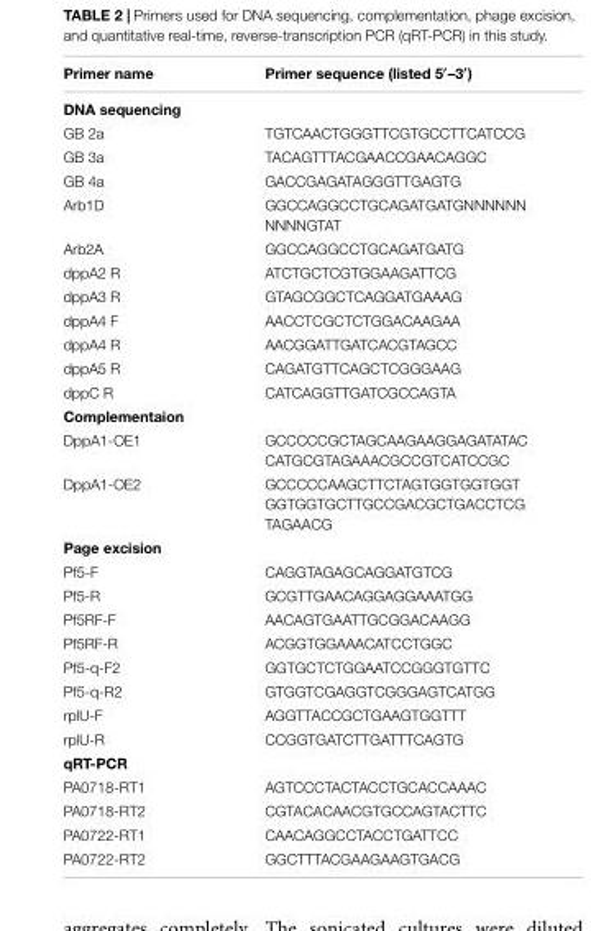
<table><thead><tr><td>Primer name</td><td>Primer sequence (listed 5′–3′)</td></tr></thead><tbody><tr><td colspan="2">DNA sequencing</td></tr><tr><td>GB 2a</td><td>TGTCAACTGGGTTCGTGCCTTCATCCG</td></tr><tr><td>GB 3a</td><td>TACAGTTTACGAACCGAACAGGC</td></tr><tr><td>GB 4a</td><td>GACCGAGATAGGGTTGAGTG</td></tr><tr><td>Arb1D</td><td>GGCCAGGCCTGCAGATGATGNNNNNN NNNNGTAT</td></tr><tr><td>Arb2A</td><td>GGCCAGGCCTGCAGATGATG</td></tr><tr><td>dppA2 R</td><td>ATCTGCTCGTGGAAGATTCG</td></tr><tr><td>dppA3 R</td><td>GTAGCGGCTCAGGATGAAAG</td></tr><tr><td>dppA4 F</td><td>AACCTCGCTCTGGACAAGAA</td></tr><tr><td>dppA4 R</td><td>AACGGATTGATCACGTAGCC</td></tr><tr><td>dppA5 R</td><td>CAGATGTTCAGCTCGGGAAG</td></tr><tr><td>dppC R</td><td>CATCAGGTTGATCGCCAGTA</td></tr><tr><td colspan="2">Complementaion</td></tr><tr><td>DppA1-OE1</td><td>GCCCCCGCTAGCAAGAAGGAGATATAC CATGCGTAGAAACGCCGTCATCCGC</td></tr><tr><td>DppA1-OE2</td><td>GCCCCCAAGCTTCTAGTGGTGGTGGT GGTGGTGCTTGCCGACGCTGACCTCG TAGAACG</td></tr><tr><td colspan="2">Page excision</td></tr><tr><td>Pf5-F</td><td>CAGGTAGAGCAGGATGTCG</td></tr><tr><td>Pf5-R</td><td>GCGTTGAACAGGAGGAAATGG</td></tr><tr><td>Pf5RF-F</td><td>AACAGTGAATTGCGGACAAGG</td></tr><tr><td>Pf5RF-R</td><td>ACGGTGGAAACATCCTGGC</td></tr><tr><td>Pf5-q-F2</td><td>GGTGCTCTGGAATCCGGGTGTTC</td></tr><tr><td>Pf5-q-R2</td><td>GTGGTCGAGGTCGGGAGTCATGG</td></tr><tr><td>rplU-F</td><td>AGGTTACCGCTGAAGTGGTTT</td></tr><tr><td>rplU-R</td><td>CCGGTGATCTTGATTTCAGTG</td></tr><tr><td colspan="2">qRT-PCR</td></tr><tr><td>PA0718-RT1</td><td>AGTCCCTACTACCTGCACCAAAC</td></tr><tr><td>PA0718-RT2</td><td>CGTACACAACGTGCCAGTACTTC</td></tr><tr><td>PA0722-RT1</td><td>CAACAGGCCTACCTGATTCC</td></tr><tr><td>PA0722-RT2</td><td>GGCTTTACGAAGAAGTGACG</td></tr></tbody></table>